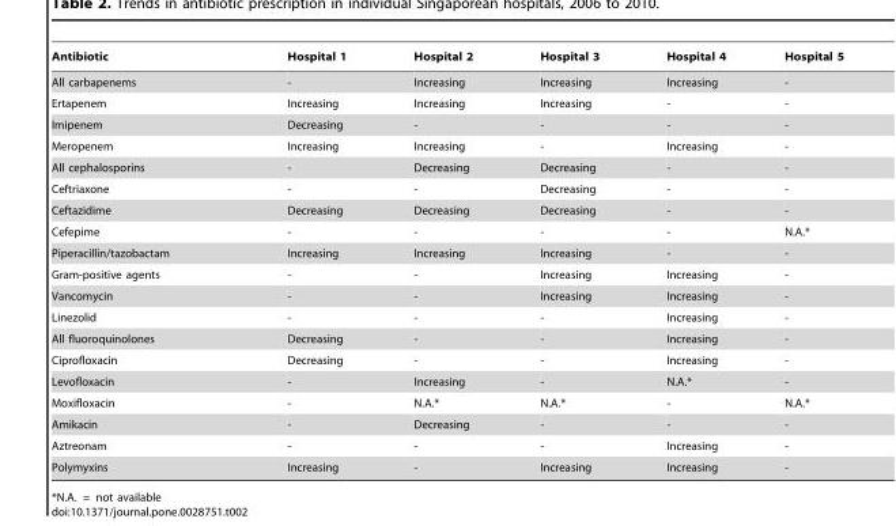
<table><thead><tr><td>Antibiotic</td><td>Hospital 1</td><td>Hospital 2</td><td>Hospital 3</td><td>Hospital 4</td><td>Hospital 5</td></tr></thead><tbody><tr><td>All carbapenems</td><td>-</td><td>Increasing</td><td>Increasing</td><td>Increasing</td><td>-</td></tr><tr><td>Ertapenem</td><td>Increasing</td><td>Increasing</td><td>Increasing</td><td>-</td><td>-</td></tr><tr><td>Imipenem</td><td>Decreasing</td><td>-</td><td>-</td><td>-</td><td>-</td></tr><tr><td>Meropenem</td><td>Increasing</td><td>Increasing</td><td>-</td><td>Increasing</td><td>-</td></tr><tr><td>All cephalosporins</td><td>-</td><td>Decreasing</td><td>Decreasing</td><td>-</td><td>-</td></tr><tr><td>Ceftriaxone</td><td>-</td><td>-</td><td>Decreasing</td><td>-</td><td>-</td></tr><tr><td>Ceftazidime</td><td>Decreasing</td><td>Decreasing</td><td>Decreasing</td><td>-</td><td>-</td></tr><tr><td>Cefepime</td><td>-</td><td>-</td><td>-</td><td>-</td><td>N.A.*</td></tr><tr><td>Piperacillin/tazobactam</td><td>Increasing</td><td>Increasing</td><td>Increasing</td><td>-</td><td>-</td></tr><tr><td>Gram-positive agents</td><td>-</td><td>-</td><td>Increasing</td><td>Increasing</td><td>-</td></tr><tr><td>Vancomycin</td><td>-</td><td>-</td><td>Increasing</td><td>Increasing</td><td>-</td></tr><tr><td>Linezolid</td><td>-</td><td>-</td><td>-</td><td>Increasing</td><td>-</td></tr><tr><td>All fluoroquinolones</td><td>Decreasing</td><td>-</td><td>-</td><td>Increasing</td><td>-</td></tr><tr><td>Ciprofloxacin</td><td>Decreasing</td><td>-</td><td>-</td><td>Increasing</td><td>-</td></tr><tr><td>Levofloxacin</td><td>-</td><td>Increasing</td><td>-</td><td>N.A.*</td><td>-</td></tr><tr><td>Moxifloxacin</td><td>-</td><td>N.A.*</td><td>N.A.*</td><td>-</td><td>N.A.*</td></tr><tr><td>Amikacin</td><td>-</td><td>Decreasing</td><td>-</td><td>-</td><td>-</td></tr><tr><td>Aztreonam</td><td>-</td><td>-</td><td>-</td><td>Increasing</td><td>-</td></tr><tr><td>Polymyxins</td><td>Increasing</td><td>-</td><td>Increasing</td><td>Increasing</td><td>-</td></tr></tbody></table>